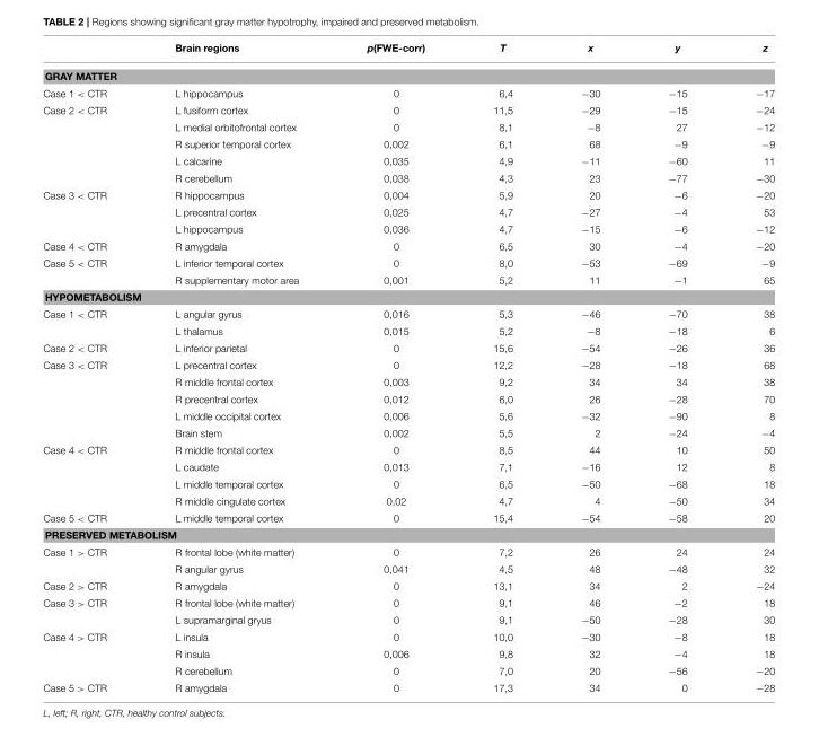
<table><thead><tr><td></td><td>Brain regions</td><td>p(FWE-corr)</td><td>T</td><td>x</td><td>y</td><td>z</td></tr></thead><tbody><tr><td colspan="7">GRAY MATTER</td></tr><tr><td>Case 1 &lt; CTR</td><td>L hippocampus</td><td>0</td><td>6,4</td><td>−30</td><td>−15</td><td>−17</td></tr><tr><td rowspan="5">Case 2 &lt; CTR</td><td>L fusiform cortex</td><td>0</td><td>11,5</td><td>−29</td><td>−15</td><td>−24</td></tr><tr><td>L medial orbitofrontal cortex</td><td>0</td><td>8,1</td><td>−8</td><td>27</td><td>−12</td></tr><tr><td>R superior temporal cortex</td><td>0,002</td><td>6,1</td><td>68</td><td>−9</td><td>−9</td></tr><tr><td>L calcarine</td><td>0,035</td><td>4,9</td><td>−11</td><td>−60</td><td>11</td></tr><tr><td>R cerebellum</td><td>0,038</td><td>4,3</td><td>23</td><td>−77</td><td>−30</td></tr><tr><td rowspan="3">Case 3 &lt; CTR</td><td>R hippocampus</td><td>0,004</td><td>5,9</td><td>20</td><td>−6</td><td>−20</td></tr><tr><td>L precentral cortex</td><td>0,025</td><td>4,7</td><td>−27</td><td>−4</td><td>53</td></tr><tr><td>L hippocampus</td><td>0,036</td><td>4,7</td><td>−15</td><td>−6</td><td>−12</td></tr><tr><td>Case 4 &lt; CTR</td><td>R amygdala</td><td>0</td><td>6,5</td><td>30</td><td>−4</td><td>−20</td></tr><tr><td rowspan="2">Case 5 &lt; CTR</td><td>L inferior temporal cortex</td><td>0</td><td>8,0</td><td>−53</td><td>−69</td><td>−9</td></tr><tr><td>R supplementary motor area</td><td>0,001</td><td>5,2</td><td>11</td><td>−1</td><td>65</td></tr><tr><td colspan="7">HYPOMETABOLISM</td></tr><tr><td rowspan="2">Case 1 &lt; CTR</td><td>L angular gyrus</td><td>0,016</td><td>5,3</td><td>−46</td><td>−70</td><td>38</td></tr><tr><td>L thalamus</td><td>0,015</td><td>5,2</td><td>−8</td><td>−18</td><td>6</td></tr><tr><td>Case 2 &lt; CTR</td><td>L inferior parietal</td><td>0</td><td>15,6</td><td>−54</td><td>−26</td><td>36</td></tr><tr><td rowspan="5">Case 3 &lt; CTR</td><td>L precentral cortex</td><td>0</td><td>12,2</td><td>−28</td><td>−18</td><td>68</td></tr><tr><td>R middle frontal cortex</td><td>0,003</td><td>9,2</td><td>34</td><td>34</td><td>38</td></tr><tr><td>R precentral cortex</td><td>0,012</td><td>6,0</td><td>26</td><td>−28</td><td>70</td></tr><tr><td>L middle occipital cortex</td><td>0,006</td><td>5,6</td><td>−32</td><td>−90</td><td>8</td></tr><tr><td>Brain stem</td><td>0,002</td><td>5,5</td><td>2</td><td>−24</td><td>−4</td></tr><tr><td rowspan="4">Case 4 &lt; CTR</td><td>R middle frontal cortex</td><td>0</td><td>8,5</td><td>44</td><td>10</td><td>50</td></tr><tr><td>L caudate</td><td>0,013</td><td>7,1</td><td>−16</td><td>12</td><td>8</td></tr><tr><td>L middle temporal cortex</td><td>0</td><td>6,5</td><td>−50</td><td>−68</td><td>18</td></tr><tr><td>R middle cingulate cortex</td><td>0,02</td><td>4,7</td><td>4</td><td>−50</td><td>34</td></tr><tr><td>Case 5 &lt; CTR</td><td>L middle temporal cortex</td><td>0</td><td>15,4</td><td>−54</td><td>−58</td><td>20</td></tr><tr><td colspan="7">PRESERVED METABOLISM</td></tr><tr><td rowspan="2">Case 1 &gt; CTR</td><td>R frontal lobe (white matter)</td><td>0</td><td>7,2</td><td>26</td><td>24</td><td>24</td></tr><tr><td>R angular gyrus</td><td>0,041</td><td>4,5</td><td>48</td><td>−48</td><td>32</td></tr><tr><td>Case 2 &gt; CTR</td><td>R amygdala</td><td>0</td><td>13,1</td><td>34</td><td>2</td><td>−24</td></tr><tr><td rowspan="2">Case 3 &gt; CTR</td><td>R frontal lobe (white matter)</td><td>0</td><td>9,1</td><td>46</td><td>−2</td><td>18</td></tr><tr><td>L supramarginal gryus</td><td>0</td><td>9,1</td><td>−50</td><td>−28</td><td>30</td></tr><tr><td rowspan="3">Case 4 &gt; CTR</td><td>L insula</td><td>0</td><td>10,0</td><td>−30</td><td>−8</td><td>18</td></tr><tr><td>R insula</td><td>0,006</td><td>9,8</td><td>32</td><td>−4</td><td>18</td></tr><tr><td>R cerebellum</td><td>0</td><td>7,0</td><td>20</td><td>−56</td><td>−20</td></tr><tr><td>Case 5 &gt; CTR</td><td>R amygdala</td><td>0</td><td>17,3</td><td>34</td><td>0</td><td>−28</td></tr></tbody></table>